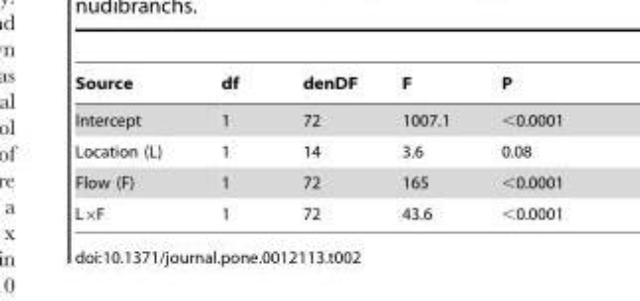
<table><thead><tr><td>Source</td><td>df</td><td>denDF</td><td>F</td><td>P</td></tr></thead><tbody><tr><td>Intercept</td><td>1</td><td>72</td><td>1007.1</td><td>&lt;0.0001</td></tr><tr><td>Location (L)</td><td>1</td><td>14</td><td>3.6</td><td>0.08</td></tr><tr><td>Flow (F)</td><td>1</td><td>72</td><td>165</td><td>&lt;0.0001</td></tr><tr><td>L×F</td><td>1</td><td>72</td><td>43.6</td><td>&lt;0.0001</td></tr></tbody></table>